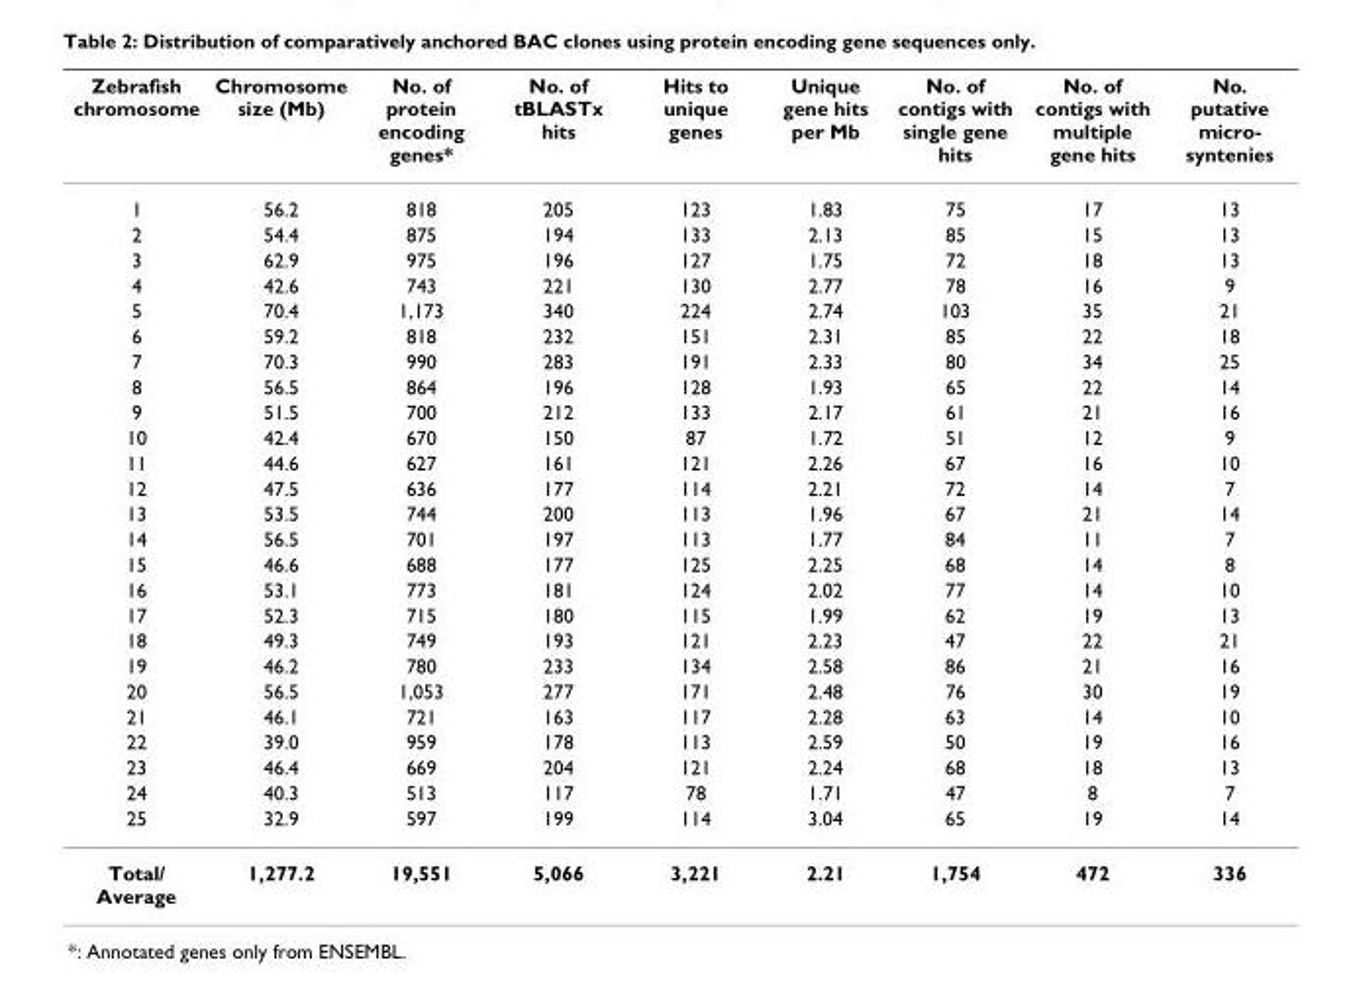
<table><thead><tr><td>Zebrafish chromosome</td><td>Chromosome size (Mb)</td><td>No. of protein encoding genes*</td><td>No. of tBLASTx hits</td><td>Hits to unique genes</td><td>Unique gene hits per Mb</td><td>No. of contigs with single gene hits</td><td>No. of contigs with multiple gene hits</td><td>No. putative micro- syntenies</td></tr></thead><tbody><tr><td>1</td><td>56.2</td><td>818</td><td>205</td><td>123</td><td>1.83</td><td>75</td><td>17</td><td>13</td></tr><tr><td>2</td><td>54.4</td><td>875</td><td>194</td><td>133</td><td>2.13</td><td>85</td><td>15</td><td>13</td></tr><tr><td>3</td><td>62.9</td><td>975</td><td>196</td><td>127</td><td>1.75</td><td>72</td><td>18</td><td>13</td></tr><tr><td>4</td><td>42.6</td><td>743</td><td>221</td><td>130</td><td>2.77</td><td>78</td><td>16</td><td>9</td></tr><tr><td>5</td><td>70.4</td><td>1,173</td><td>340</td><td>224</td><td>2.74</td><td>103</td><td>35</td><td>21</td></tr><tr><td>6</td><td>59.2</td><td>818</td><td>232</td><td>151</td><td>2.31</td><td>85</td><td>22</td><td>18</td></tr><tr><td>7</td><td>70.3</td><td>990</td><td>283</td><td>191</td><td>2.33</td><td>80</td><td>34</td><td>25</td></tr><tr><td>8</td><td>56.5</td><td>864</td><td>196</td><td>128</td><td>1.93</td><td>65</td><td>22</td><td>14</td></tr><tr><td>9</td><td>51.5</td><td>700</td><td>212</td><td>133</td><td>2.17</td><td>61</td><td>21</td><td>16</td></tr><tr><td>10</td><td>42.4</td><td>670</td><td>150</td><td>87</td><td>1.72</td><td>51</td><td>12</td><td>9</td></tr><tr><td>11</td><td>44.6</td><td>627</td><td>161</td><td>121</td><td>2.26</td><td>67</td><td>16</td><td>10</td></tr><tr><td>12</td><td>47.5</td><td>636</td><td>177</td><td>114</td><td>2.21</td><td>72</td><td>14</td><td>7</td></tr><tr><td>13</td><td>53.5</td><td>744</td><td>200</td><td>113</td><td>1.96</td><td>67</td><td>21</td><td>14</td></tr><tr><td>14</td><td>56.5</td><td>701</td><td>197</td><td>113</td><td>1.77</td><td>84</td><td>11</td><td>7</td></tr><tr><td>15</td><td>46.6</td><td>688</td><td>177</td><td>125</td><td>2.25</td><td>68</td><td>14</td><td>8</td></tr><tr><td>16</td><td>53.1</td><td>773</td><td>181</td><td>124</td><td>2.02</td><td>77</td><td>14</td><td>10</td></tr><tr><td>17</td><td>52.3</td><td>715</td><td>180</td><td>115</td><td>1.99</td><td>62</td><td>19</td><td>13</td></tr><tr><td>18</td><td>49.3</td><td>749</td><td>193</td><td>121</td><td>2.23</td><td>47</td><td>22</td><td>21</td></tr><tr><td>19</td><td>46.2</td><td>780</td><td>233</td><td>134</td><td>2.58</td><td>86</td><td>21</td><td>16</td></tr><tr><td>20</td><td>56.5</td><td>1,053</td><td>277</td><td>171</td><td>2.48</td><td>76</td><td>30</td><td>19</td></tr><tr><td>21</td><td>46.1</td><td>721</td><td>163</td><td>117</td><td>2.28</td><td>63</td><td>14</td><td>10</td></tr><tr><td>22</td><td>39.0</td><td>959</td><td>178</td><td>113</td><td>2.59</td><td>50</td><td>19</td><td>16</td></tr><tr><td>23</td><td>46.4</td><td>669</td><td>204</td><td>121</td><td>2.24</td><td>68</td><td>18</td><td>13</td></tr><tr><td>24</td><td>40.3</td><td>513</td><td>117</td><td>78</td><td>1.71</td><td>47</td><td>8</td><td>7</td></tr><tr><td>25</td><td>32.9</td><td>597</td><td>199</td><td>114</td><td>3.04</td><td>65</td><td>19</td><td>14</td></tr><tr><td>Total/ Average</td><td>1,277.2</td><td>19,551</td><td>5,066</td><td>3,221</td><td>2.21</td><td>1,754</td><td>472</td><td>336</td></tr></tbody></table>